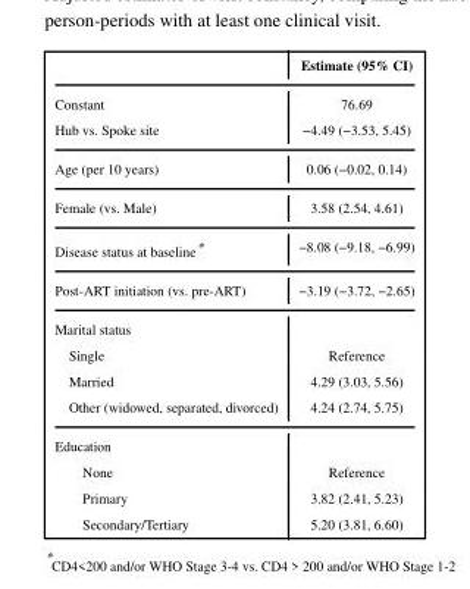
<table><thead><tr><td></td><td>Estimate (95% CI)</td></tr></thead><tbody><tr><td>Constant</td><td>76.69</td></tr><tr><td>Hub vs. Spoke site</td><td>−4.49 (−3.53, 5.45)</td></tr><tr><td>Age (per 10 years)</td><td>0.06 (−0.02, 0.14)</td></tr><tr><td>Female (vs. Male)</td><td>3.58 (2.54, 4.61)</td></tr><tr><td>Disease status at baseline*</td><td>−8.08 (−9.18, −6.99)</td></tr><tr><td>Post-ART initiation (vs. pre-ART)</td><td>−3.19 (−3.72, −2.65)</td></tr><tr><td colspan="2">Marital status</td></tr><tr><td>Single</td><td>Reference</td></tr><tr><td>Married</td><td>4.29 (3.03, 5.56)</td></tr><tr><td>Other (widowed, separated, divorced)</td><td>4.24 (2.74, 5.75)</td></tr><tr><td colspan="2">Education</td></tr><tr><td>None</td><td>Reference</td></tr><tr><td>Primary</td><td>3.82 (2.41, 5.23)</td></tr><tr><td>Secondary/Tertiary</td><td>5.20 (3.81, 6.60)</td></tr></tbody></table>